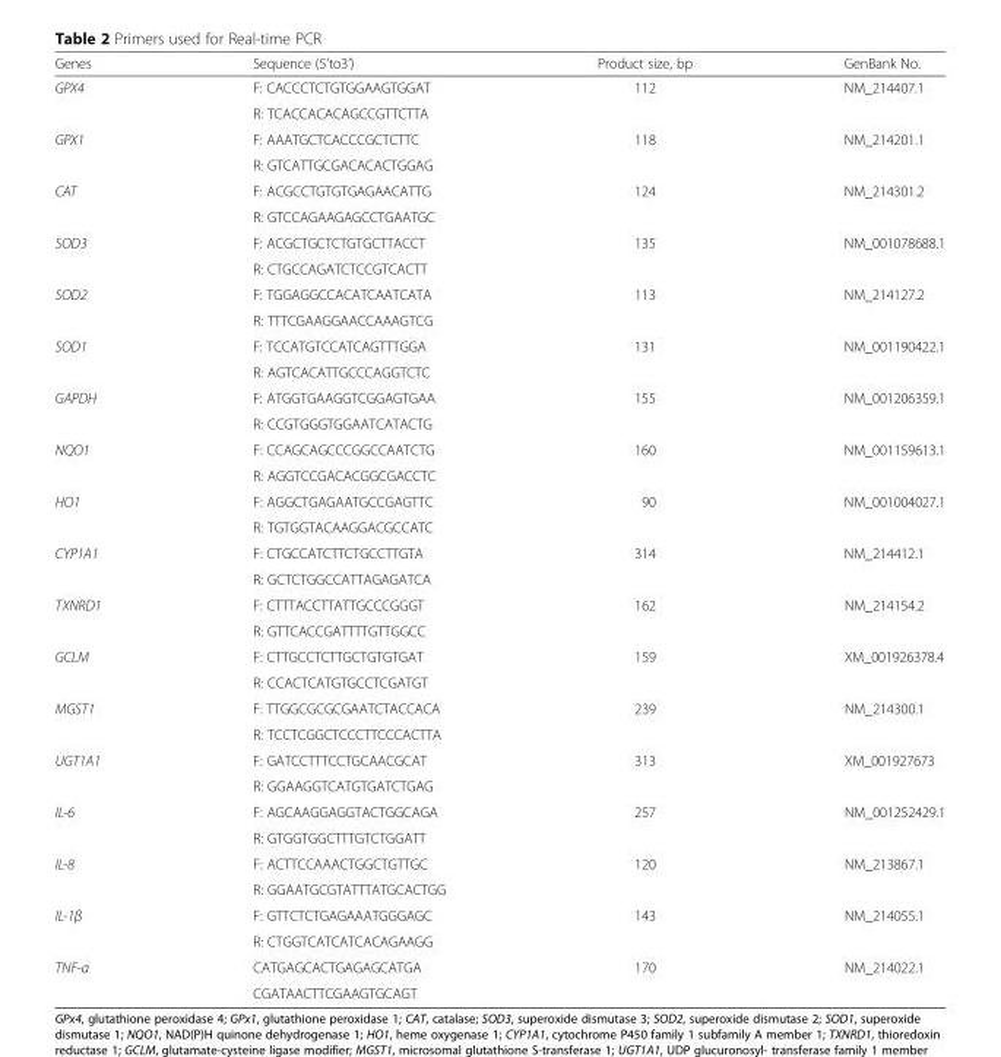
<table><thead><tr><td>Genes</td><td>Sequence (5’to3’)</td><td>Product size, bp</td><td>GenBank No.</td></tr></thead><tbody><tr><td rowspan="2">GPX4</td><td>F: CACCCTCTGTGGAAGTGGAT</td><td rowspan="2">112</td><td rowspan="2">NM_214407.1</td></tr><tr><td>R: TCACCACACAGCCGTTCTTA</td></tr><tr><td rowspan="2">GPX1</td><td>F: AAATGCTCACCCGCTCTTC</td><td rowspan="2">118</td><td rowspan="2">NM_214201.1</td></tr><tr><td>R: GTCATTGCGACACACTGGAG</td></tr><tr><td rowspan="2">CAT</td><td>F: ACGCCTGTGTGAGAACATTG</td><td rowspan="2">124</td><td rowspan="2">NM_214301.2</td></tr><tr><td>R: GTCCAGAAGAGCCTGAATGC</td></tr><tr><td rowspan="2">SOD3</td><td>F: ACGCTGCTCTGTGCTTACCT</td><td rowspan="2">135</td><td rowspan="2">NM_001078688.1</td></tr><tr><td>R: CTGCCAGATCTCCGTCACTT</td></tr><tr><td rowspan="2">SOD2</td><td>F: TGGAGGCCACATCAATCATA</td><td rowspan="2">113</td><td rowspan="2">NM_214127.2</td></tr><tr><td>R: TTTCGAAGGAACCAAAGTCG</td></tr><tr><td rowspan="2">SOD1</td><td>F: TCCATGTCCATCAGTTTGGA</td><td rowspan="2">131</td><td rowspan="2">NM_001190422.1</td></tr><tr><td>R: AGTCACATTGCCCAGGTCTC</td></tr><tr><td rowspan="2">GAPDH</td><td>F: ATGGTGAAGGTCGGAGTGAA</td><td rowspan="2">155</td><td rowspan="2">NM_001206359.1</td></tr><tr><td>R: CCGTGGGTGGAATCATACTG</td></tr><tr><td rowspan="2">NQO1</td><td>F: CCAGCAGCCCGGCCAATCTG</td><td rowspan="2">160</td><td rowspan="2">NM_001159613.1</td></tr><tr><td>R: AGGTCCGACACGGCGACCTC</td></tr><tr><td rowspan="2">HO1</td><td>F: AGGCTGAGAATGCCGAGTTC</td><td rowspan="2">90</td><td rowspan="2">NM_001004027.1</td></tr><tr><td>R: TGTGGTACAAGGACGCCATC</td></tr><tr><td rowspan="2">CYP1A1</td><td>F: CTGCCATCTTCTGCCTTGTA</td><td rowspan="2">314</td><td rowspan="2">NM_214412.1</td></tr><tr><td>R: GCTCTGGCCATTAGAGATCA</td></tr><tr><td rowspan="2">TXNRD1</td><td>F: CTTTACCTTATTGCCCGGGT</td><td rowspan="2">162</td><td rowspan="2">NM_214154.2</td></tr><tr><td>R: GTTCACCGATTTTGTTGGCC</td></tr><tr><td rowspan="2">GCLM</td><td>F: CTTGCCTCTTGCTGTGTGAT</td><td rowspan="2">159</td><td rowspan="2">XM_001926378.4</td></tr><tr><td>R: CCACTCATGTGCCTCGATGT</td></tr><tr><td rowspan="2">MGST1</td><td>F: TTGGCGCGCGAATCTACCACA</td><td rowspan="2">239</td><td rowspan="2">NM_214300.1</td></tr><tr><td>R: TCCTCGGCTCCCTTCCCACTTA</td></tr><tr><td rowspan="2">UGT1A1</td><td>F: GATCCTTTCCTGCAACGCAT</td><td rowspan="2">313</td><td rowspan="2">XM_001927673</td></tr><tr><td>R: GGAAGGTCATGTGATCTGAG</td></tr><tr><td rowspan="2">IL-6</td><td>F: AGCAAGGAGGTACTGGCAGA</td><td rowspan="2">257</td><td rowspan="2">NM_001252429.1</td></tr><tr><td>R: GTGGTGGCTTTGTCTGGATT</td></tr><tr><td rowspan="2">IL-8</td><td>F: ACTTCCAAACTGGCTGTTGC</td><td rowspan="2">120</td><td rowspan="2">NM_213867.1</td></tr><tr><td>R: GGAATGCGTATTTATGCACTGG</td></tr><tr><td rowspan="2">IL-1β</td><td>F: GTTCTCTGAGAAATGGGAGC</td><td rowspan="2">143</td><td rowspan="2">NM_214055.1</td></tr><tr><td>R: CTGGTCATCATCACAGAAGG</td></tr><tr><td rowspan="2">TNF-α</td><td>CATGAGCACTGAGAGCATGA</td><td rowspan="2">170</td><td rowspan="2">NM_214022.1</td></tr><tr><td>CGATAACTTCGAAGTGCAGT</td></tr></tbody></table>